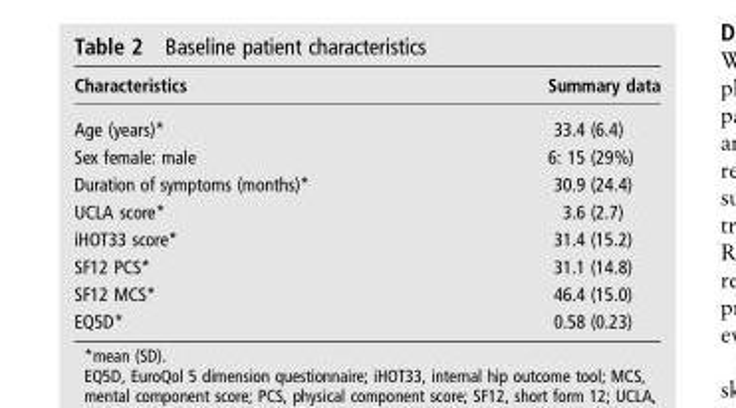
<table><thead><tr><td>Characteristics</td><td>Summary data</td></tr></thead><tbody><tr><td>Age (years)*</td><td>33.4 (6.4)</td></tr><tr><td>Sex female: male</td><td>6: 15 (29%)</td></tr><tr><td>Duration of symptoms (months)*</td><td>30.9 (24.4)</td></tr><tr><td>UCLA score*</td><td>3.6 (2.7)</td></tr><tr><td>iHOT33 score*</td><td>31.4 (15.2)</td></tr><tr><td>SF12 PCS*</td><td>31.1 (14.8)</td></tr><tr><td>SF12 MCS*</td><td>46.4 (15.0)</td></tr><tr><td>EQ5D*</td><td>0.58 (0.23)</td></tr></tbody></table>